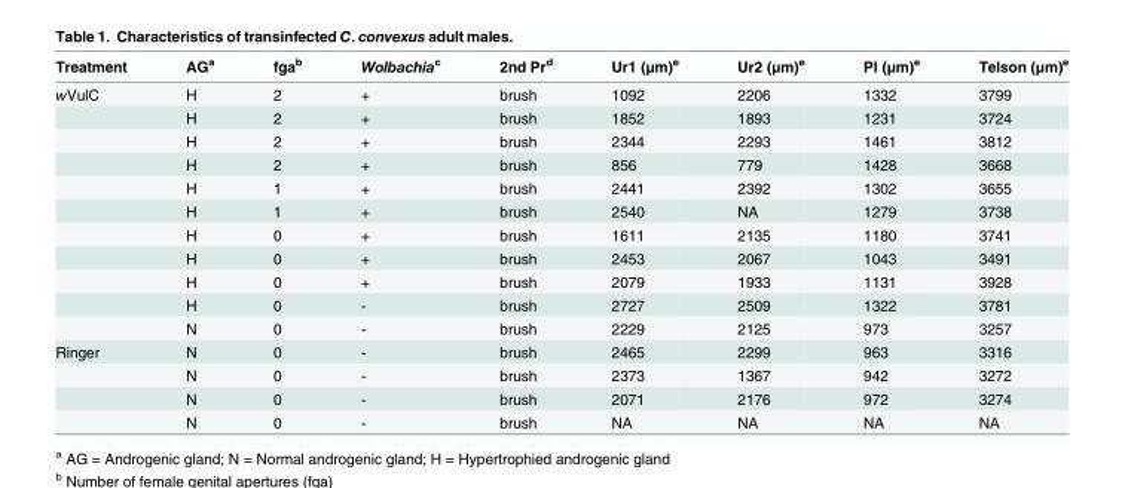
<table><thead><tr><td>Treatment</td><td>AG<sup>a</sup></td><td>fga<sup>b</sup></td><td>Wolbachia<sup>c</sup></td><td>2nd Pr<sup>d</sup></td><td>Ur1 (μm)<sup>e</sup></td><td>Ur2 (μm)<sup>e</sup></td><td>Pl (μm)<sup>e</sup></td><td>Telson (μm)<sup>e</sup></td></tr></thead><tbody><tr><td rowspan="11">wVulC</td><td>H</td><td>2</td><td>+</td><td>brush</td><td>1092</td><td>2206</td><td>1332</td><td>3799</td></tr><tr><td>H</td><td>2</td><td>+</td><td>brush</td><td>1852</td><td>1893</td><td>1231</td><td>3724</td></tr><tr><td>H</td><td>2</td><td>+</td><td>brush</td><td>2344</td><td>2293</td><td>1461</td><td>3812</td></tr><tr><td>H</td><td>2</td><td>+</td><td>brush</td><td>856</td><td>779</td><td>1428</td><td>3668</td></tr><tr><td>H</td><td>1</td><td>+</td><td>brush</td><td>2441</td><td>2392</td><td>1302</td><td>3655</td></tr><tr><td>H</td><td>1</td><td>+</td><td>brush</td><td>2540</td><td>NA</td><td>1279</td><td>3738</td></tr><tr><td>H</td><td>0</td><td>+</td><td>brush</td><td>1611</td><td>2135</td><td>1180</td><td>3741</td></tr><tr><td>H</td><td>0</td><td>+</td><td>brush</td><td>2453</td><td>2067</td><td>1043</td><td>3491</td></tr><tr><td>H</td><td>0</td><td>+</td><td>brush</td><td>2079</td><td>1933</td><td>1131</td><td>3928</td></tr><tr><td>H</td><td>0</td><td>-</td><td>brush</td><td>2727</td><td>2509</td><td>1322</td><td>3781</td></tr><tr><td>N</td><td>0</td><td>-</td><td>brush</td><td>2229</td><td>2125</td><td>973</td><td>3257</td></tr><tr><td rowspan="4">Ringer</td><td>N</td><td>0</td><td>-</td><td>brush</td><td>2465</td><td>2299</td><td>963</td><td>3316</td></tr><tr><td>N</td><td>0</td><td>-</td><td>brush</td><td>2373</td><td>1367</td><td>942</td><td>3272</td></tr><tr><td>N</td><td>0</td><td>-</td><td>brush</td><td>2071</td><td>2176</td><td>972</td><td>3274</td></tr><tr><td>N</td><td>0</td><td>-</td><td>brush</td><td>NA</td><td>NA</td><td>NA</td><td>NA</td></tr></tbody></table>